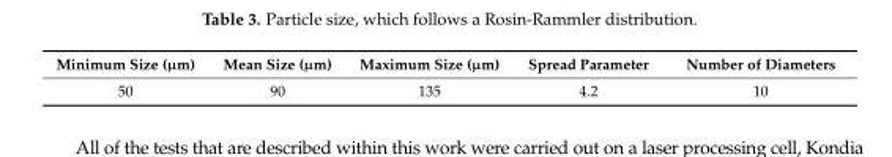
<table><thead><tr><td>Minimum Size (µm)</td><td>Mean Size (µm)</td><td>Maximum Size (µm)</td><td>Spread Parameter</td><td>Number of Diameters</td></tr></thead><tbody><tr><td>50</td><td>90</td><td>135</td><td>4.2</td><td>10</td></tr></tbody></table>